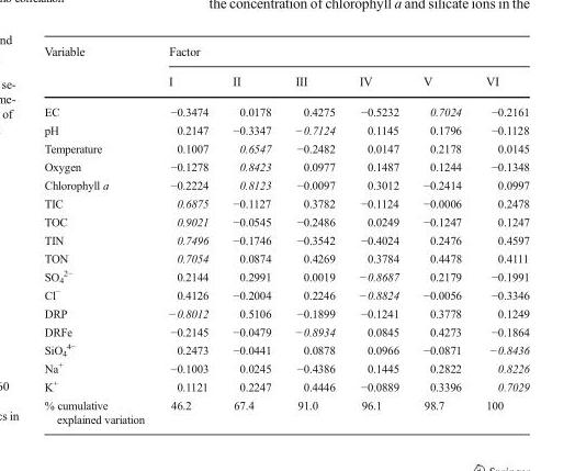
<table><thead><tr><td rowspan="2">Variable</td><td colspan="6">Factor</td></tr><tr><td>I</td><td>II</td><td>III</td><td>IV</td><td>V</td><td>VI</td></tr></thead><tbody><tr><td>EC</td><td>−0.3474</td><td>0.0178</td><td>0.4275</td><td>−0.5232</td><td>0.7024</td><td>−0.2161</td></tr><tr><td>pH</td><td>0.2147</td><td>−0.3347</td><td>−0.7124</td><td>0.1145</td><td>0.1796</td><td>−0.1128</td></tr><tr><td>Temperature</td><td>0.1007</td><td>0.6547</td><td>−0.2482</td><td>0.0147</td><td>0.2178</td><td>0.0145</td></tr><tr><td>Oxygen</td><td>−0.1278</td><td>0.8423</td><td>0.0977</td><td>0.1487</td><td>0.1244</td><td>−0.1348</td></tr><tr><td>Chlorophyll a</td><td>−0.2224</td><td>0.8123</td><td>−0.0097</td><td>0.3012</td><td>−0.2414</td><td>0.0997</td></tr><tr><td>TIC</td><td>0.6875</td><td>−0.1127</td><td>0.3782</td><td>−0.1124</td><td>−0.0006</td><td>0.2478</td></tr><tr><td>TOC</td><td>0.9021</td><td>−0.0545</td><td>−0.2486</td><td>0.0249</td><td>−0.1247</td><td>0.1247</td></tr><tr><td>TIN</td><td>0.7496</td><td>−0.1746</td><td>−0.3542</td><td>−0.4024</td><td>0.2476</td><td>0.4597</td></tr><tr><td>TON</td><td>0.7054</td><td>0.0874</td><td>0.4269</td><td>0.3784</td><td>0.4478</td><td>0.4111</td></tr><tr><td>SO<sub>4</sub> <sup>2−</sup></td><td>0.2144</td><td>0.2991</td><td>0.0019</td><td>−0.8687</td><td>0.2179</td><td>−0.1991</td></tr><tr><td>Cl<sup>−</sup></td><td>0.4126</td><td>−0.2004</td><td>0.2246</td><td>−0.8824</td><td>−0.0056</td><td>−0.3346</td></tr><tr><td>DRP</td><td>−0.8012</td><td>0.5106</td><td>−0.1899</td><td>−0.1241</td><td>0.3778</td><td>0.1249</td></tr><tr><td>DRFe</td><td>−0.2145</td><td>−0.0479</td><td>−0.8934</td><td>0.0845</td><td>0.4273</td><td>−0.1864</td></tr><tr><td>SiO<sub>4</sub> <sup>4−</sup></td><td>0.2473</td><td>−0.0441</td><td>0.0878</td><td>0.0966</td><td>−0.0871</td><td>−0.8436</td></tr><tr><td>Na<sup>+</sup></td><td>−0.1003</td><td>0.0245</td><td>−0.4386</td><td>0.1445</td><td>0.2822</td><td>0.8226</td></tr><tr><td>K<sup>+</sup></td><td>0.1121</td><td>0.2247</td><td>0.4446</td><td>−0.0889</td><td>0.3396</td><td>0.7029</td></tr><tr><td>% cumulative explained variation</td><td>46.2</td><td>67.4</td><td>91.0</td><td>96.1</td><td>98.7</td><td>100</td></tr></tbody></table>